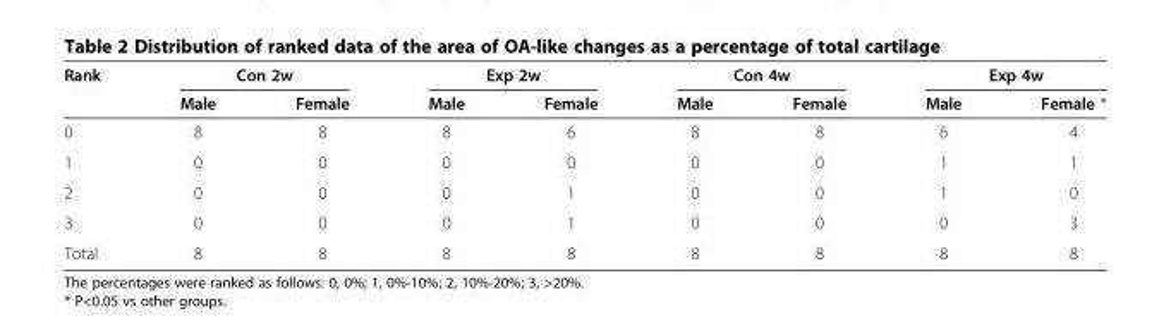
<table><thead><tr><td rowspan="2">Rank</td><td colspan="2">Con 2w</td><td colspan="2">Exp 2w</td><td colspan="2">Con 4w</td><td colspan="2">Exp 4w</td></tr><tr><td>Male</td><td>Female</td><td>Male</td><td>Female</td><td>Male</td><td>Female</td><td>Male</td><td>Female *</td></tr></thead><tbody><tr><td>0</td><td>8</td><td>8</td><td>8</td><td>6</td><td>8</td><td>8</td><td>6</td><td>4</td></tr><tr><td>1</td><td>0</td><td>0</td><td>0</td><td>0</td><td>0</td><td>0</td><td>1</td><td>1</td></tr><tr><td>2</td><td>0</td><td>0</td><td>0</td><td>1</td><td>0</td><td>0</td><td>1</td><td>0</td></tr><tr><td>3</td><td>0</td><td>0</td><td>0</td><td>1</td><td>0</td><td>0</td><td>0</td><td>3</td></tr><tr><td>Total</td><td>8</td><td>8</td><td>8</td><td>8</td><td>8</td><td>8</td><td>8</td><td>8</td></tr></tbody></table>